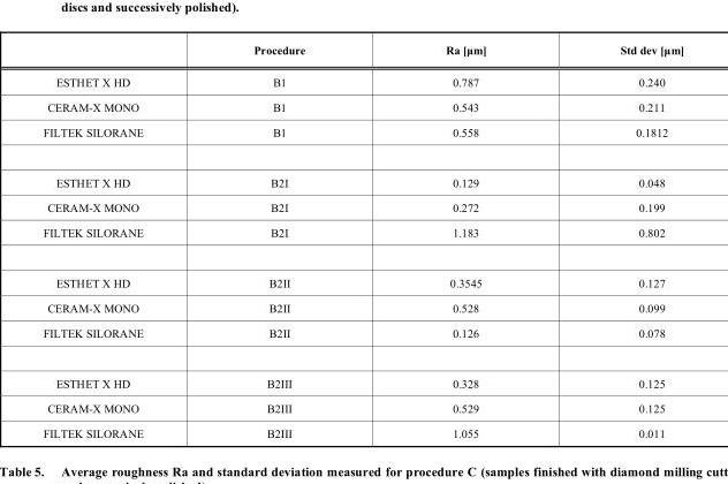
<table><thead><tr><td></td><td>Procedure</td><td>Ra [μm]</td><td>Std dev [μm]</td></tr></thead><tbody><tr><td>ESTHET X HD</td><td>B1</td><td>0.787</td><td>0.240</td></tr><tr><td>CERAM-X MONO</td><td>B1</td><td>0.543</td><td>0.211</td></tr><tr><td>FILTEK SILORANE</td><td>B1</td><td>0.558</td><td>0.1812</td></tr><tr><td>ESTHET X HD</td><td>B2I</td><td>0.129</td><td>0.048</td></tr><tr><td>CERAM-X MONO</td><td>B2I</td><td>0.272</td><td>0.199</td></tr><tr><td>FILTEK SILORANE</td><td>B2I</td><td>1.183</td><td>0.802</td></tr><tr><td>ESTHET X HD</td><td>B2II</td><td>0.3545</td><td>0.127</td></tr><tr><td>CERAM-X MONO</td><td>B2II</td><td>0.528</td><td>0.099</td></tr><tr><td>FILTEK SILORANE</td><td>B2II</td><td>0.126</td><td>0.078</td></tr><tr><td>ESTHET X HD</td><td>B2III</td><td>0.328</td><td>0.125</td></tr><tr><td>CERAM-X MONO</td><td>B2III</td><td>0.529</td><td>0.125</td></tr><tr><td>FILTEK SILORANE</td><td>B2III</td><td>1.055</td><td>0.011</td></tr></tbody></table>